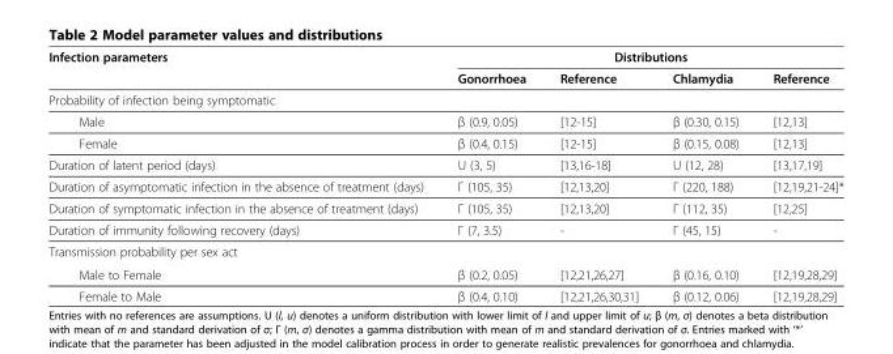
<table><thead><tr><td rowspan="2">Infection parameters</td><td colspan="4">Distributions</td></tr><tr><td>Gonorrhoea</td><td>Reference</td><td>Chlamydia</td><td>Reference</td></tr></thead><tbody><tr><td colspan="5">Probability of infection being symptomatic</td></tr><tr><td>Male</td><td>β (0.9, 0.05)</td><td>[12-15]</td><td>β (0.30, 0.15)</td><td>[12,13]</td></tr><tr><td>Female</td><td>β (0.4, 0.15)</td><td>[12-15]</td><td>β (0.15, 0.08)</td><td>[12,13]</td></tr><tr><td>Duration of latent period (days)</td><td>U (3, 5)</td><td>[13,16-18]</td><td>U (12, 28)</td><td>[13,17,19]</td></tr><tr><td>Duration of asymptomatic infection in the absence of treatment (days)</td><td>Γ (105, 35)</td><td>[12,13,20]</td><td>Γ (220, 188)</td><td>[12,19,21-24]*</td></tr><tr><td>Duration of symptomatic infection in the absence of treatment (days)</td><td>Γ (105, 35)</td><td>[12,13,20]</td><td>Γ (112, 35)</td><td>[12,25]</td></tr><tr><td>Duration of immunity following recovery (days)</td><td>Γ (7, 3.5)</td><td>-</td><td>Γ (45, 15)</td><td>-</td></tr><tr><td colspan="5">Transmission probability per sex act</td></tr><tr><td>Male to Female</td><td>β (0.2, 0.05)</td><td>[12,21,26,27]</td><td>β (0.16, 0.10)</td><td>[12,19,28,29]</td></tr><tr><td>Female to Male</td><td>β (0.4, 0.10)</td><td>[12,21,26,30,31]</td><td>β (0.12, 0.06)</td><td>[12,19,28,29]</td></tr></tbody></table>